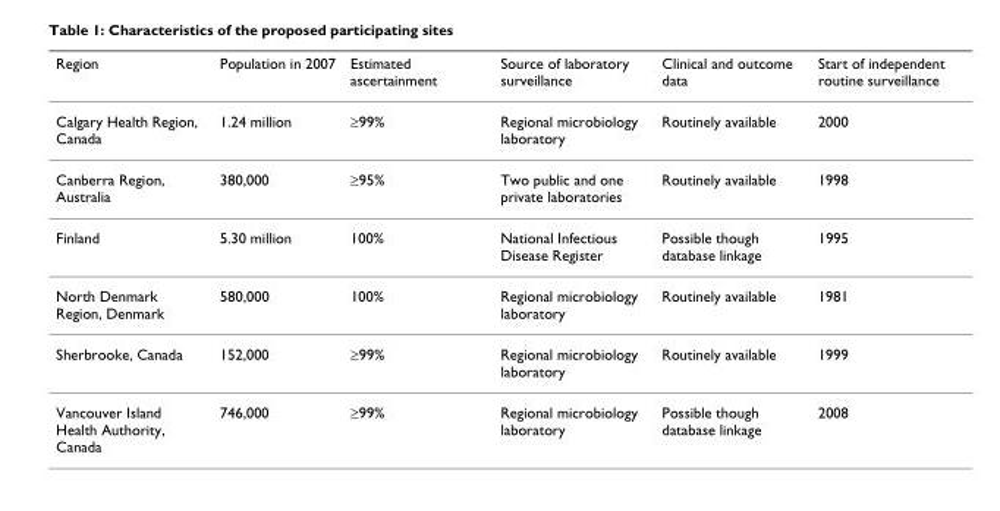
<table><thead><tr><td>Region</td><td>Population in 2007</td><td>Estimated ascertainment</td><td>Source of laboratory surveillance</td><td>Clinical and outcome data</td><td>Start of independent routine surveillance</td></tr></thead><tbody><tr><td>Calgary Health Region, Canada</td><td>1.24 million</td><td>≥99%</td><td>Regional microbiology laboratory</td><td>Routinely available</td><td>2000</td></tr><tr><td>Canberra Region, Australia</td><td>380,000</td><td>≥95%</td><td>Two public and one private laboratories</td><td>Routinely available</td><td>1998</td></tr><tr><td>Finland</td><td>5.30 million</td><td>100%</td><td>National Infectious Disease Register</td><td>Possible though database linkage</td><td>1995</td></tr><tr><td>North Denmark Region, Denmark</td><td>580,000</td><td>100%</td><td>Regional microbiology laboratory</td><td>Routinely available</td><td>1981</td></tr><tr><td>Sherbrooke, Canada</td><td>152,000</td><td>≥99%</td><td>Regional microbiology laboratory</td><td>Routinely available</td><td>1999</td></tr><tr><td>Vancouver Island Health Authority, Canada</td><td>746,000</td><td>≥99%</td><td>Regional microbiology laboratory</td><td>Possible though database linkage</td><td>2008</td></tr></tbody></table>